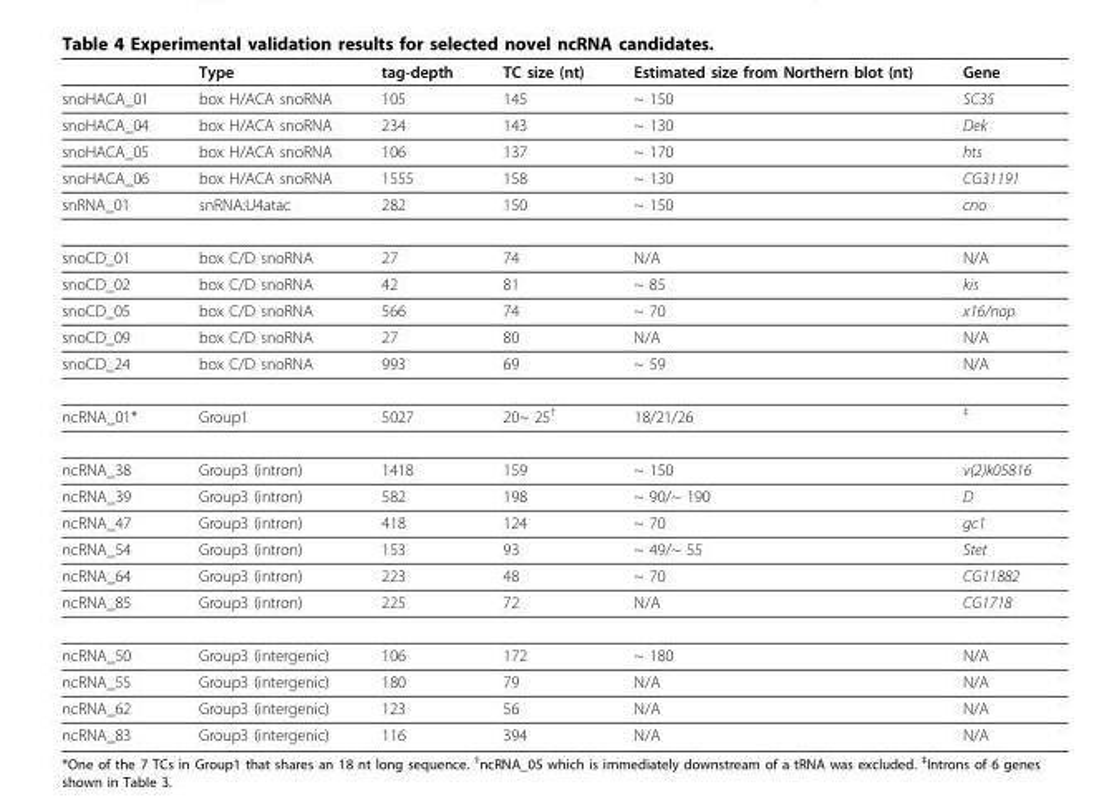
<table><thead><tr><td></td><td>Type</td><td>tag-depth</td><td>TC size (nt)</td><td>Estimated size from Northern blot (nt)</td><td>Gene</td></tr></thead><tbody><tr><td>snoHACA_01</td><td>box H/ACA snoRNA</td><td>105</td><td>145</td><td>~ 150</td><td>SC35</td></tr><tr><td>snoHACA_04</td><td>box H/ACA snoRNA</td><td>234</td><td>143</td><td>~ 130</td><td>Dek</td></tr><tr><td>snoHACA_05</td><td>box H/ACA snoRNA</td><td>106</td><td>137</td><td>~ 170</td><td>hts</td></tr><tr><td>snoHACA_06</td><td>box H/ACA snoRNA</td><td>1555</td><td>158</td><td>~ 130</td><td>CG31191</td></tr><tr><td>snRNA_01</td><td>snRNA:U4atac</td><td>282</td><td>150</td><td>~ 150</td><td>cno</td></tr><tr><td>snoCD_01</td><td>box C/D snoRNA</td><td>27</td><td>74</td><td>N/A</td><td>N/A</td></tr><tr><td>snoCD_02</td><td>box C/D snoRNA</td><td>42</td><td>81</td><td>~ 85</td><td>kis</td></tr><tr><td>snoCD_05</td><td>box C/D snoRNA</td><td>566</td><td>74</td><td>~ 70</td><td>x16/nop</td></tr><tr><td>snoCD_09</td><td>box C/D snoRNA</td><td>27</td><td>80</td><td>N/A</td><td>N/A</td></tr><tr><td>snoCD_24</td><td>box C/D snoRNA</td><td>993</td><td>69</td><td>~ 59</td><td>N/A</td></tr><tr><td>ncRNA_01*</td><td>Group1</td><td>5027</td><td>20~ 25†</td><td>18/21/26</td><td>‡</td></tr><tr><td>ncRNA_38</td><td>Group3 (intron)</td><td>1418</td><td>159</td><td>~ 150</td><td>v(2)k05816</td></tr><tr><td>ncRNA_39</td><td>Group3 (intron)</td><td>582</td><td>198</td><td>~ 90/~ 190</td><td>D</td></tr><tr><td>ncRNA_47</td><td>Group3 (intron)</td><td>418</td><td>124</td><td>~ 70</td><td>gc1</td></tr><tr><td>ncRNA_54</td><td>Group3 (intron)</td><td>153</td><td>93</td><td>~ 49/~ 55</td><td>Stet</td></tr><tr><td>ncRNA_64</td><td>Group3 (intron)</td><td>223</td><td>48</td><td>~ 70</td><td>CG11882</td></tr><tr><td>ncRNA_85</td><td>Group3 (intron)</td><td>225</td><td>72</td><td>N/A</td><td>CG1718</td></tr><tr><td>ncRNA_50</td><td>Group3 (intergenic)</td><td>106</td><td>172</td><td>~ 180</td><td>N/A</td></tr><tr><td>ncRNA_55</td><td>Group3 (intergenic)</td><td>180</td><td>79</td><td>N/A</td><td>N/A</td></tr><tr><td>ncRNA_62</td><td>Group3 (intergenic)</td><td>123</td><td>56</td><td>N/A</td><td>N/A</td></tr><tr><td>ncRNA_83</td><td>Group3 (intergenic)</td><td>116</td><td>394</td><td>N/A</td><td>N/A</td></tr></tbody></table>